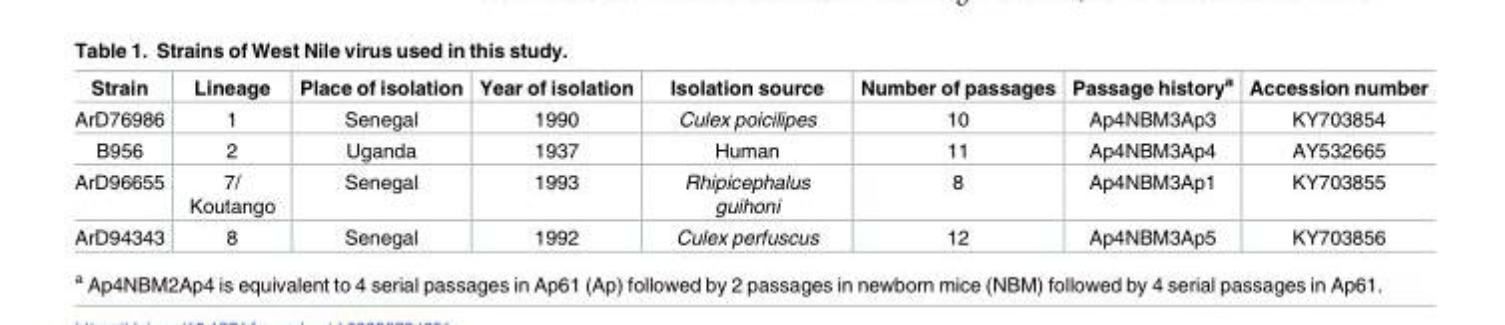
<table><thead><tr><td>Strain</td><td>Lineage</td><td>Place of isolation</td><td>Year of isolation</td><td>Isolation source</td><td>Number of passages</td><td>Passage history<sup>a</sup></td><td>Accession number</td></tr></thead><tbody><tr><td>ArD76986</td><td>1</td><td>Senegal</td><td>1990</td><td>Culex poicilipes</td><td>10</td><td>Ap4NBM3Ap3</td><td>KY703854</td></tr><tr><td>B956</td><td>2</td><td>Uganda</td><td>1937</td><td>Human</td><td>11</td><td>Ap4NBM3Ap4</td><td>AY532665</td></tr><tr><td>ArD96655</td><td>7/ Koutango</td><td>Senegal</td><td>1993</td><td>Rhipicephalus guihoni</td><td>8</td><td>Ap4NBM3Ap1</td><td>KY703855</td></tr><tr><td>ArD94343</td><td>8</td><td>Senegal</td><td>1992</td><td>Culex perfuscus</td><td>12</td><td>Ap4NBM3Ap5</td><td>KY703856</td></tr></tbody></table>